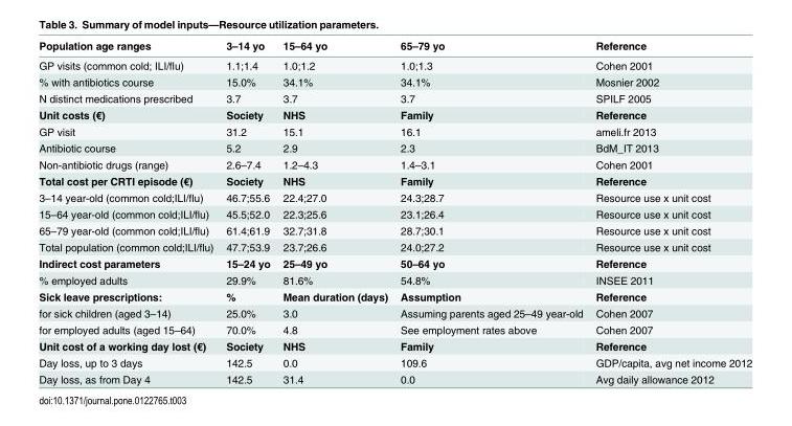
<table><thead><tr><td>Population age ranges</td><td>3–14 yo</td><td>15–64 yo</td><td>65–79 yo</td><td>Reference</td></tr></thead><tbody><tr><td>GP visits (common cold; ILI/flu)</td><td>1.1;1.4</td><td>1.0;1.2</td><td>1.0;1.3</td><td>Cohen 2001</td></tr><tr><td>% with antibiotics course</td><td>15.0%</td><td>34.1%</td><td>34.1%</td><td>Mosnier 2002</td></tr><tr><td>N distinct medications prescribed</td><td>3.7</td><td>3.7</td><td>3.7</td><td>SPILF 2005</td></tr><tr><td>Unit costs (€)</td><td>Society</td><td>NHS</td><td>Family</td><td>Reference</td></tr><tr><td>GP visit</td><td>31.2</td><td>15.1</td><td>16.1</td><td>ameli.fr 2013</td></tr><tr><td>Antibiotic course</td><td>5.2</td><td>2.9</td><td>2.3</td><td>BdM_IT 2013</td></tr><tr><td>Non-antibiotic drugs (range)</td><td>2.6–7.4</td><td>1.2–4.3</td><td>1.4–3.1</td><td>Cohen 2001</td></tr><tr><td>Total cost per CRTI episode (€)</td><td>Society</td><td>NHS</td><td>Family</td><td>Reference</td></tr><tr><td>3–14 year-old (common cold;ILI/flu)</td><td>46.7;55.6</td><td>22.4;27.0</td><td>24.3;28.7</td><td>Resource use x unit cost</td></tr><tr><td>15–64 year-old (common cold;ILI/flu)</td><td>45.5;52.0</td><td>22.3;25.6</td><td>23.1;26.4</td><td>Resource use x unit cost</td></tr><tr><td>65–79 year-old (common cold;ILI/flu)</td><td>61.4;61.9</td><td>32.7;31.8</td><td>28.7;30.1</td><td>Resource use x unit cost</td></tr><tr><td>Total population (common cold;ILI/flu)</td><td>47.7;53.9</td><td>23.7;26.6</td><td>24.0;27.2</td><td>Resource use x unit cost</td></tr><tr><td>Indirect cost parameters</td><td>15–24 yo</td><td>25–49 yo</td><td>50–64 yo</td><td>Reference</td></tr><tr><td>% employed adults</td><td>29.9%</td><td>81.6%</td><td>54.8%</td><td>INSEE 2011</td></tr><tr><td>Sick leave prescriptions:</td><td>%</td><td>Mean duration (days)</td><td>Assumption</td><td>Reference</td></tr><tr><td>for sick children (aged 3–14)</td><td>25.0%</td><td>3.0</td><td>Assuming parents aged 25–49 year-old</td><td>Cohen 2007</td></tr><tr><td>for employed adults (aged 15–64)</td><td>70.0%</td><td>4.8</td><td>See employment rates above</td><td>Cohen 2007</td></tr><tr><td>Unit cost of a working day lost (€)</td><td>Society</td><td>NHS</td><td>Family</td><td>Reference</td></tr><tr><td>Day loss, up to 3 days</td><td>142.5</td><td>0.0</td><td>109.6</td><td>GDP/capita, avg net income 2012</td></tr><tr><td>Day loss, as from Day 4</td><td>142.5</td><td>31.4</td><td>0.0</td><td>Avg daily allowance 2012</td></tr></tbody></table>